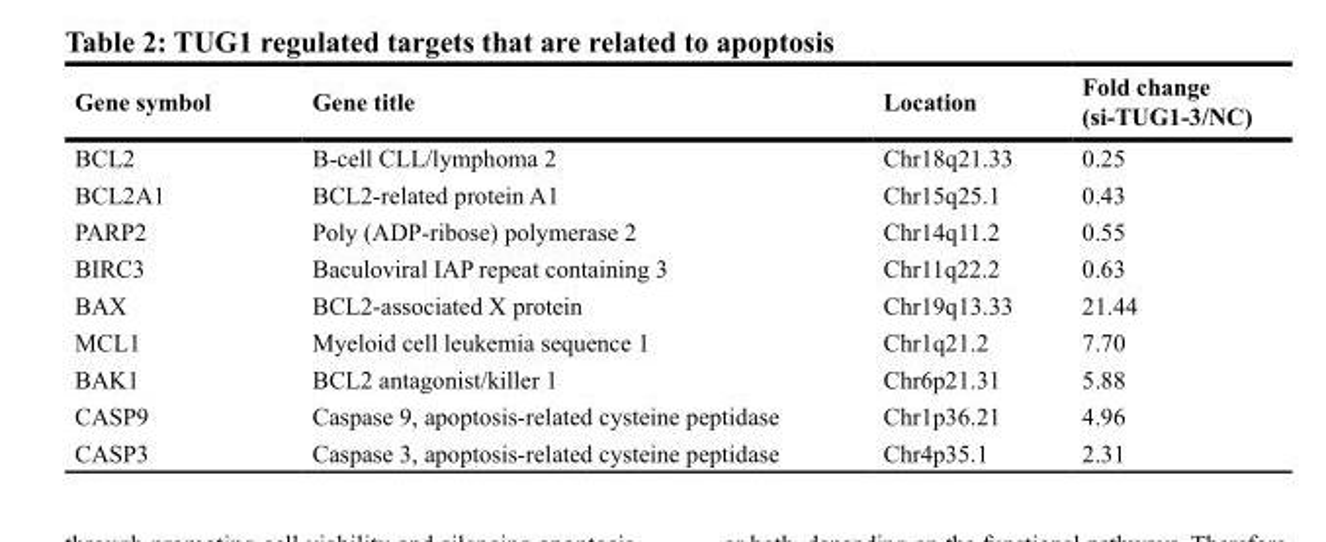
<table><thead><tr><td>Gene symbol</td><td>Gene title</td><td>Location</td><td>Fold change (si-TUG1-3/NC)</td></tr></thead><tbody><tr><td>BCL2</td><td>B-cell CLL/lymphoma 2</td><td>Chr18q21.33</td><td>0.25</td></tr><tr><td>BCL2A1</td><td>BCL2-related protein A1</td><td>Chr15q25.1</td><td>0.43</td></tr><tr><td>PARP2</td><td>Poly (ADP-ribose) polymerase 2</td><td>Chr14q11.2</td><td>0.55</td></tr><tr><td>BIRC3</td><td>Baculoviral IAP repeat containing 3</td><td>Chr11q22.2</td><td>0.63</td></tr><tr><td>BAX</td><td>BCL2-associated X protein</td><td>Chr19q13.33</td><td>21.44</td></tr><tr><td>MCL1</td><td>Myeloid cell leukemia sequence 1</td><td>Chr1q21.2</td><td>7.70</td></tr><tr><td>BAK1</td><td>BCL2 antagonist/killer 1</td><td>Chr6p21.31</td><td>5.88</td></tr><tr><td>CASP9</td><td>Caspase 9, apoptosis-related cysteine peptidase</td><td>Chr1p36.21</td><td>4.96</td></tr><tr><td>CASP3</td><td>Caspase 3, apoptosis-related cysteine peptidase</td><td>Chr4p35.1</td><td>2.31</td></tr></tbody></table>